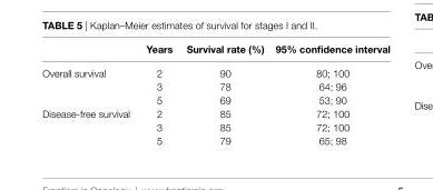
<table><thead><tr><td></td><td>Years</td><td>survival rate (%)</td><td>95% confidence interval</td></tr></thead><tbody><tr><td rowspan="3">Overall survival</td><td>2</td><td>90</td><td>80; 100</td></tr><tr><td>3</td><td>78</td><td>64; 96</td></tr><tr><td>5</td><td>69</td><td>53; 90</td></tr><tr><td rowspan="3">Disease-free survival</td><td>2</td><td>85</td><td>72; 100</td></tr><tr><td>3</td><td>85</td><td>72; 100</td></tr><tr><td>5</td><td>79</td><td>65; 98</td></tr></tbody></table>